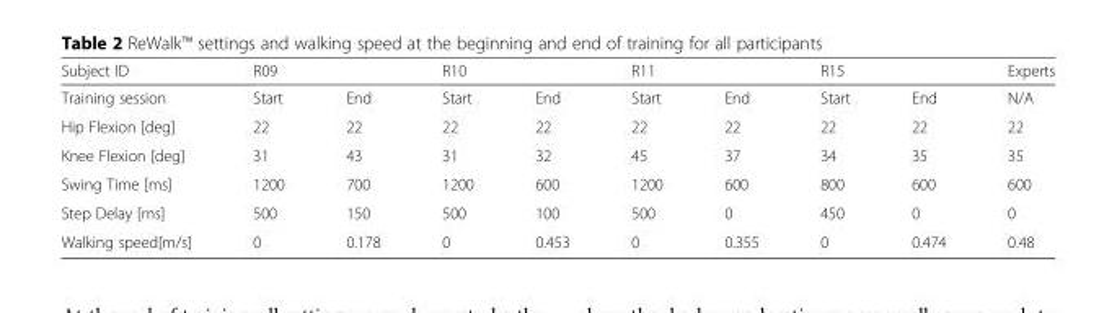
<table><thead><tr><td rowspan="2">Subject ID Training session</td><td colspan="2">R09</td><td colspan="2">R10</td><td colspan="2">R11</td><td colspan="2">R15</td><td rowspan="2">Experts N/A</td></tr><tr><td>Start</td><td>End</td><td>Start</td><td>End</td><td>Start</td><td>End</td><td>Start</td><td>End</td></tr></thead><tbody><tr><td>Hip Flexion [deg]</td><td>22</td><td>22</td><td>22</td><td>22</td><td>22</td><td>22</td><td>22</td><td>22</td><td>22</td></tr><tr><td>Knee Flexion [deg]</td><td>31</td><td>43</td><td>31</td><td>32</td><td>45</td><td>37</td><td>34</td><td>35</td><td>35</td></tr><tr><td>Swing Time [ms]</td><td>1200</td><td>700</td><td>1200</td><td>600</td><td>1200</td><td>600</td><td>800</td><td>600</td><td>600</td></tr><tr><td>Step Delay [ms]</td><td>500</td><td>150</td><td>500</td><td>100</td><td>500</td><td>0</td><td>450</td><td>0</td><td>0</td></tr><tr><td>Walking speed[m/s]</td><td>0</td><td>0.178</td><td>0</td><td>0.453</td><td>0</td><td>0.355</td><td>0</td><td>0.474</td><td>0.48</td></tr></tbody></table>